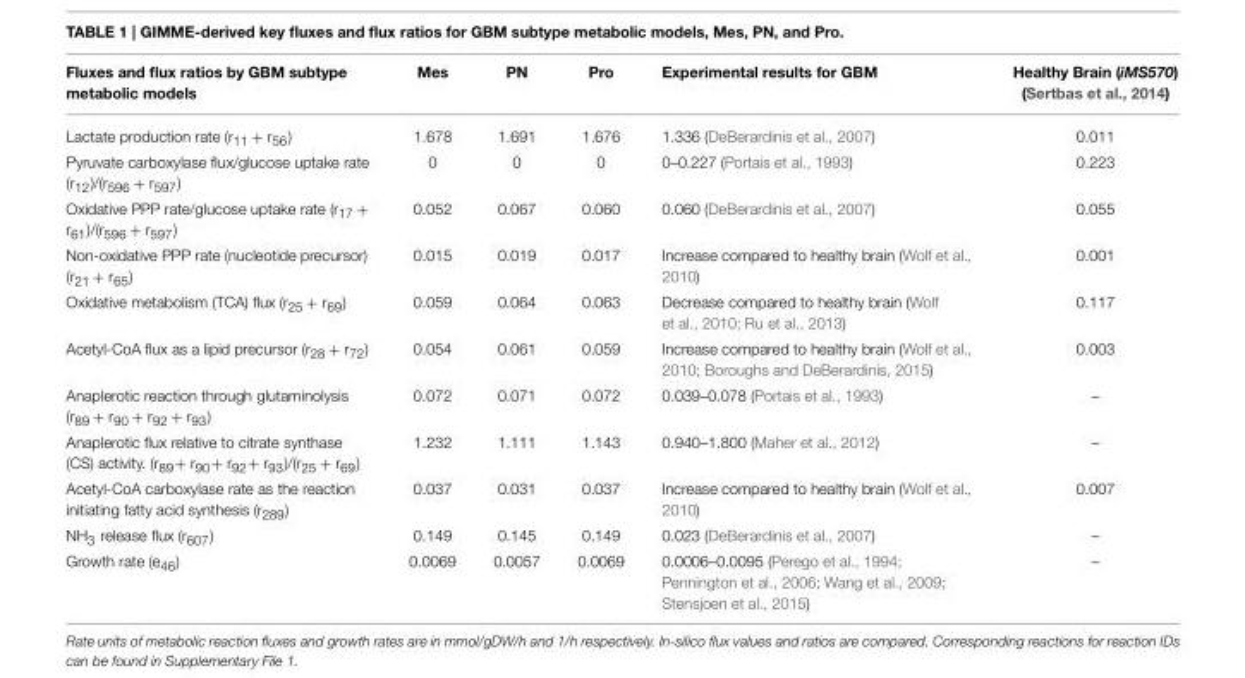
<table><thead><tr><td>Fluxes and flux ratios by GBM subtype metabolic models</td><td>Mes</td><td>PN</td><td>Pro</td><td>Experimental results for GBM</td><td>Healthy Brain (iMS570) (Sertbas et al., 2014)</td></tr></thead><tbody><tr><td>Lactate production rate (r<sub>11</sub> + r<sub>56</sub>)</td><td>1.678</td><td>1.691</td><td>1.676</td><td>1.336 (DeBerardinis et al., 2007)</td><td>0.011</td></tr><tr><td>Pyruvate carboxylase flux/glucose uptake rate (r<sub>12</sub>)/(r<sub>596</sub> + r<sub>597</sub>)</td><td>0</td><td>0</td><td>0</td><td>0–0.227 (Portais et al., 1993)</td><td>0.223</td></tr><tr><td>Oxidative PPP rate/glucose uptake rate (r<sub>17</sub> + r<sub>61</sub>)/(r<sub>596</sub> + r<sub>597</sub>)</td><td>0.052</td><td>0.067</td><td>0.060</td><td>0.060 (DeBerardinis et al., 2007)</td><td>0.055</td></tr><tr><td>Non-oxidative PPP rate (nucleotide precursor) (r<sub>21</sub> + r<sub>65</sub>)</td><td>0.015</td><td>0.019</td><td>0.017</td><td>Increase compared to healthy brain (Wolf et al., 2010)</td><td>0.001</td></tr><tr><td>Oxidative metabolism (TCA) flux (r<sub>25</sub> + r<sub>69</sub>)</td><td>0.059</td><td>0.064</td><td>0.063</td><td>Decrease compared to healthy brain (Wolf et al., 2010; Ru et al., 2013)</td><td>0.117</td></tr><tr><td>Acetyl-CoA flux as a lipid precursor (r<sub>28</sub> + r<sub>72</sub>)</td><td>0.054</td><td>0.061</td><td>0.059</td><td>Increase compared to healthy brain (Wolf et al., 2010; Boroughs and DeBerardinis, 2015)</td><td>0.003</td></tr><tr><td>Anaplerotic reaction through glutaminolysis (r<sub>89</sub> + r<sub>90</sub> + r<sub>92</sub> + r<sub>93</sub>)</td><td>0.072</td><td>0.071</td><td>0.072</td><td>0.039–0.078 (Portais et al., 1993)</td><td>–</td></tr><tr><td>Anaplerotic flux relative to citrate synthase (CS) activity. (r<sub>89</sub>+ r<sub>90</sub>+ r<sub>92</sub>+ r<sub>93</sub>)/(r<sub>25</sub> + r<sub>69</sub>)</td><td>1.232</td><td>1.111</td><td>1.143</td><td>0.940–1.800 (Maher et al., 2012)</td><td>–</td></tr><tr><td>Acetyl-CoA carboxylase rate as the reaction initiating fatty acid synthesis (r<sub>289</sub>)</td><td>0.037</td><td>0.031</td><td>0.037</td><td>Increase compared to healthy brain (Wolf et al., 2010)</td><td>0.007</td></tr><tr><td>NH<sub>3</sub> release flux (r<sub>607</sub>)</td><td>0.149</td><td>0.145</td><td>0.149</td><td>0.023 (DeBerardinis et al., 2007)</td><td>–</td></tr><tr><td>Growth rate (e<sub>46</sub>)</td><td>0.0069</td><td>0.0057</td><td>0.0069</td><td>0.0006–0.0095 (Perego et al., 1994; Pennington et al., 2006; Wang et al., 2009; Stensjoen et al., 2015)</td><td>–</td></tr></tbody></table>